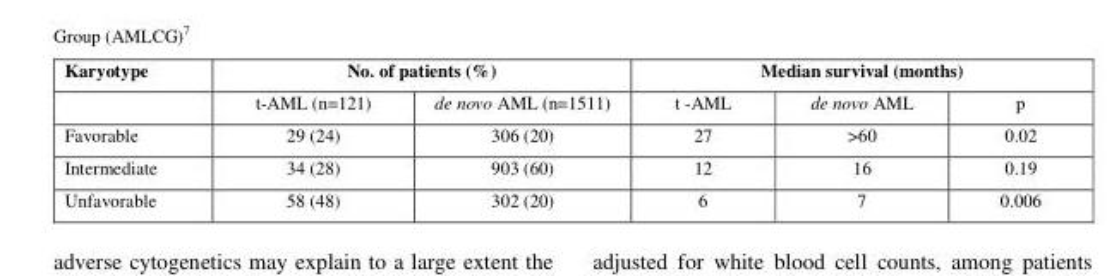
<table><thead><tr><td rowspan="2">Karyotype</td><td colspan="2">No. of patients (%)</td><td colspan="3">Median survival (months)</td></tr><tr><td>t-AML (n=121)</td><td>de novo AML (n=1511)</td><td>t -AML</td><td>de novo AML</td><td>p</td></tr></thead><tbody><tr><td>Favorable</td><td>29 (24)</td><td>306 (20)</td><td>27</td><td>&gt;60</td><td>0.02</td></tr><tr><td>Intermediate</td><td>34 (28)</td><td>903 (60)</td><td>12</td><td>16</td><td>0.19</td></tr><tr><td>Unfavorable</td><td>58 (48)</td><td>302 (20)</td><td>6</td><td>7</td><td>0.006</td></tr></tbody></table>